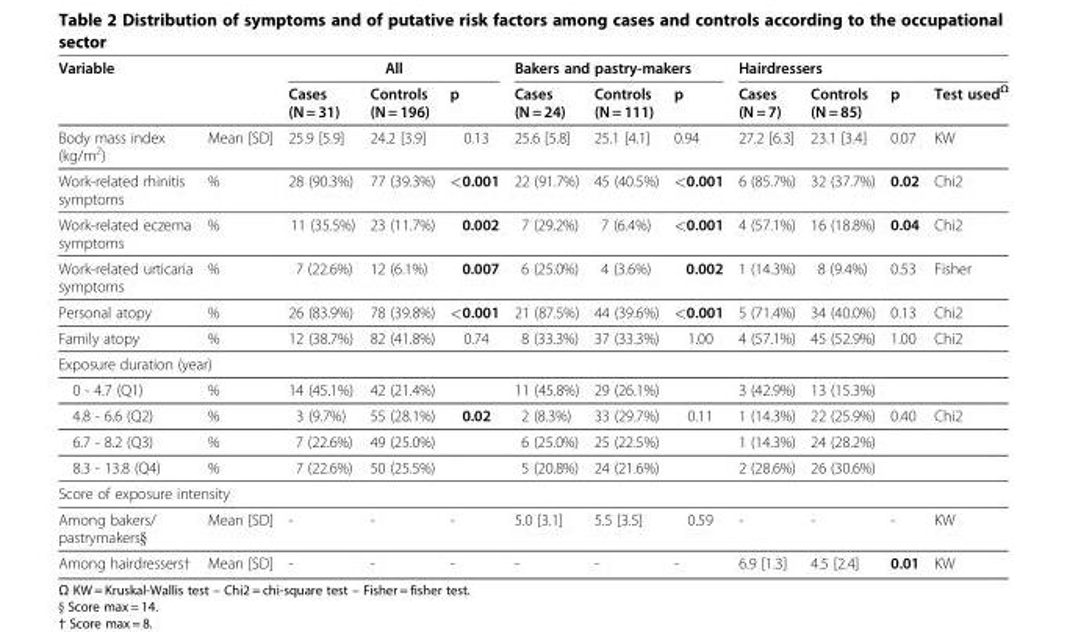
<table><thead><tr><td rowspan="2">Variable</td><td rowspan="2"></td><td colspan="3">All</td><td colspan="3">Bakers and pastry-makers</td><td colspan="4">Hairdressers</td></tr><tr><td>Cases (N = 31)</td><td>Controls (N = 196)</td><td>p</td><td>Cases (N = 24)</td><td>Controls (N = 111)</td><td>p</td><td>Cases (N = 7)</td><td>Controls (N = 85)</td><td>p</td><td>Test used<sup>Ω</sup></td></tr></thead><tbody><tr><td>Body mass index (kg/m<sup>2</sup>)</td><td>Mean [SD]</td><td>25.9 [5.9]</td><td>24.2 [3.9]</td><td>0.13</td><td>25.6 [5.8]</td><td>25.1 [4.1]</td><td>0.94</td><td>27.2 [6.3]</td><td>23.1 [3.4]</td><td>0.07</td><td>KW</td></tr><tr><td>Work-related rhinitis symptoms</td><td>%</td><td>28 (90.3%)</td><td>77 (39.3%)</td><td>&lt;0.001</td><td>22 (91.7%)</td><td>45 (40.5%)</td><td>&lt;0.001</td><td>6 (85.7%)</td><td>32 (37.7%)</td><td>0.02</td><td>Chi2</td></tr><tr><td>Work-related eczema symptoms</td><td>%</td><td>11 (35.5%)</td><td>23 (11.7%)</td><td>0.002</td><td>7 (29.2%)</td><td>7 (6.4%)</td><td>&lt;0.001</td><td>4 (57.1%)</td><td>16 (18.8%)</td><td>0.04</td><td>Chi2</td></tr><tr><td>Work-related urticaria symptoms</td><td>%</td><td>7 (22.6%)</td><td>12 (6.1%)</td><td>0.007</td><td>6 (25.0%)</td><td>4 (3.6%)</td><td>0.002</td><td>1 (14.3%)</td><td>8 (9.4%)</td><td>0.53</td><td>Fisher</td></tr><tr><td>Personal atopy</td><td>%</td><td>26 (83.9%)</td><td>78 (39.8%)</td><td>&lt;0.001</td><td>21 (87.5%)</td><td>44 (39.6%)</td><td>&lt;0.001</td><td>5 (71.4%)</td><td>34 (40.0%)</td><td>0.13</td><td>Chi2</td></tr><tr><td>Family atopy</td><td>%</td><td>12 (38.7%)</td><td>82 (41.8%)</td><td>0.74</td><td>8 (33.3%)</td><td>37 (33.3%)</td><td>1.00</td><td>4 (57.1%)</td><td>45 (52.9%)</td><td>1.00</td><td>Chi2</td></tr><tr><td colspan="12">Exposure duration (year)</td></tr><tr><td>0 - 4.7 (Q1)</td><td>%</td><td>14 (45.1%)</td><td>42 (21.4%)</td><td></td><td>11 (45.8%)</td><td>29 (26.1%)</td><td></td><td>3 (42.9%)</td><td>13 (15.3%)</td><td></td><td></td></tr><tr><td>4.8 - 6.6 (Q2)</td><td>%</td><td>3 (9.7%)</td><td>55 (28.1%)</td><td>0.02</td><td>2 (8.3%)</td><td>33 (29.7%)</td><td>0.11</td><td>1 (14.3%)</td><td>22 (25.9%)</td><td>0.40</td><td>Chi2</td></tr><tr><td>6.7 - 8.2 (Q3)</td><td>%</td><td>7 (22.6%)</td><td>49 (25.0%)</td><td></td><td>6 (25.0%)</td><td>25 (22.5%)</td><td></td><td>1 (14.3%)</td><td>24 (28.2%)</td><td></td><td></td></tr><tr><td>8.3 - 13.8 (Q4)</td><td>%</td><td>7 (22.6%)</td><td>50 (25.5%)</td><td></td><td>5 (20.8%)</td><td>24 (21.6%)</td><td></td><td>2 (28.6%)</td><td>26 (30.6%)</td><td></td><td></td></tr><tr><td colspan="12">Score of exposure intensity</td></tr><tr><td>Among bakers/ pastrymakers§</td><td>Mean [SD]</td><td>-</td><td>-</td><td>-</td><td>5.0 [3.1]</td><td>5.5 [3.5]</td><td>0.59</td><td>-</td><td>-</td><td>-</td><td>KW</td></tr><tr><td>Among hairdressers†</td><td>Mean [SD]</td><td>-</td><td>-</td><td>-</td><td>-</td><td>-</td><td>-</td><td>6.9 [1.3]</td><td>4.5 [2.4]</td><td>0.01</td><td>KW</td></tr></tbody></table>